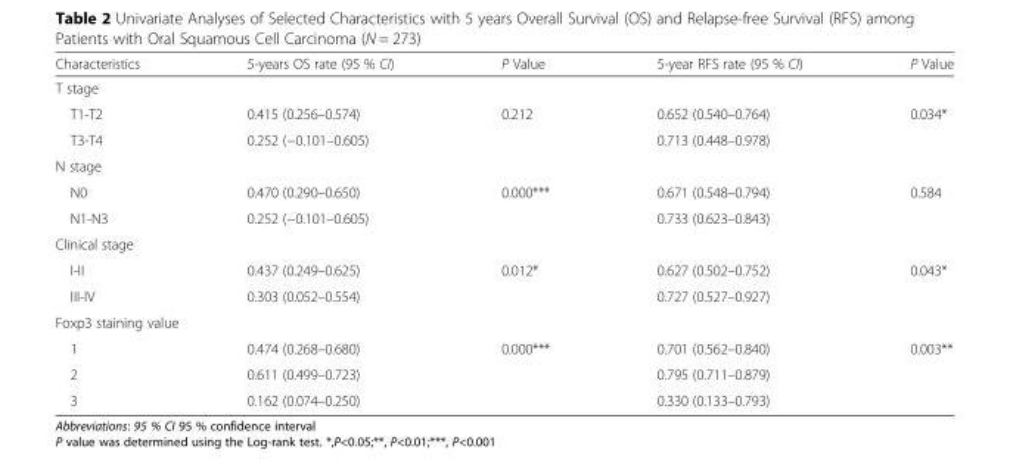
<table><thead><tr><td>Characteristics</td><td>5-years OS rate (95 % CI)</td><td>P Value</td><td>5-year RFS rate (95 % CI)</td><td>P Value</td></tr></thead><tbody><tr><td colspan="5">T stage</td></tr><tr><td>T1-T2</td><td>0.415 (0.256–0.574)</td><td>0.212</td><td>0.652 (0.540–0.764)</td><td>0.034*</td></tr><tr><td>T3-T4</td><td>0.252 (−0.101–0.605)</td><td></td><td>0.713 (0.448–0.978)</td><td></td></tr><tr><td colspan="5">N stage</td></tr><tr><td>N0</td><td>0.470 (0.290–0.650)</td><td>0.000***</td><td>0.671 (0.548–0.794)</td><td>0.584</td></tr><tr><td>N1-N3</td><td>0.252 (−0.101–0.605)</td><td></td><td>0.733 (0.623–0.843)</td><td></td></tr><tr><td colspan="5">Clinical stage</td></tr><tr><td>I-II</td><td>0.437 (0.249–0.625)</td><td>0.012*</td><td>0.627 (0.502–0.752)</td><td>0.043*</td></tr><tr><td>III-IV</td><td>0.303 (0.052–0.554)</td><td></td><td>0.727 (0.527–0.927)</td><td></td></tr><tr><td colspan="5">Foxp3 staining value</td></tr><tr><td>1</td><td>0.474 (0.268–0.680)</td><td>0.000***</td><td>0.701 (0.562–0.840)</td><td>0.003**</td></tr><tr><td>2</td><td>0.611 (0.499–0.723)</td><td></td><td>0.795 (0.711–0.879)</td><td></td></tr><tr><td>3</td><td>0.162 (0.074–0.250)</td><td></td><td>0.330 (0.133–0.793)</td><td></td></tr></tbody></table>